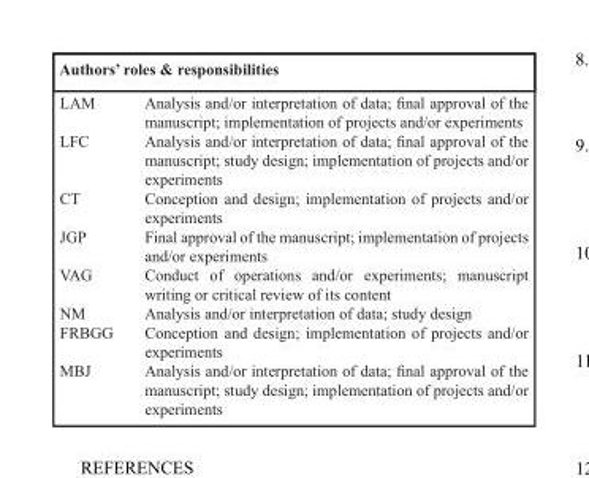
<table><thead><tr><td colspan="2">Authors’ roles &amp; responsibilities</td></tr><tr><td>LAM</td><td>Analysis and/or interpretation of data; final approval of the manuscript; implementation of projects and/or experiments</td></tr></thead><tbody><tr><td>LFC</td><td>Analysis and/or interpretation of data; final approval of the manuscript; study design; implementation of projects and/or experiments</td></tr><tr><td>CT</td><td>Conception and design; implementation of projects and/or experiments</td></tr><tr><td>JGP</td><td>Final approval of the manuscript; implementation of projects and/or experiments</td></tr><tr><td>VAG</td><td>Conduct of operations and/or experiments; manuscript writing or critical review of its content</td></tr><tr><td>NM</td><td>Analysis and/or interpretation of data; study design</td></tr><tr><td>FRBGG</td><td>Conception and design; implementation of projects and/or experiments</td></tr><tr><td>MBJ</td><td>Analysis and/or interpretation of data; final approval of the manuscript; study design; implementation of projects and/or experiments</td></tr></tbody></table>